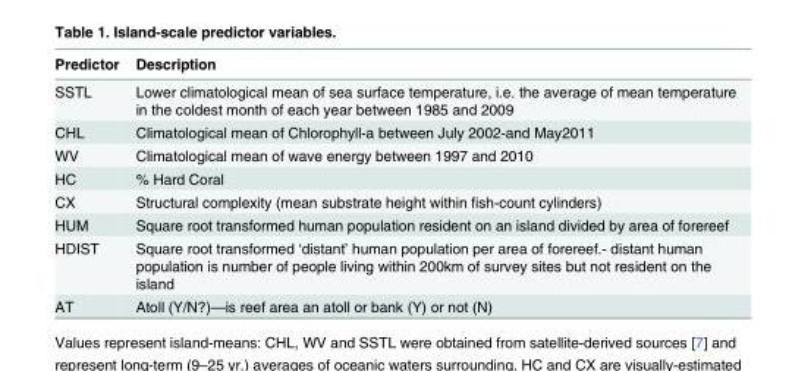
<table><thead><tr><td>Predictor</td><td>Description</td></tr></thead><tbody><tr><td>SSTL</td><td>Lower climatological mean of sea surface temperature, i.e. the average of mean temperature in the coldest month of each year between 1985 and 2009</td></tr><tr><td>CHL</td><td>Climatological mean of Chlorophyll-a between July 2002-and May2011</td></tr><tr><td>WV</td><td>Climatological mean of wave energy between 1997 and 2010</td></tr><tr><td>HC</td><td>% Hard Coral</td></tr><tr><td>CX</td><td>Structural complexity (mean substrate height within fish-count cylinders)</td></tr><tr><td>HUM</td><td>Square root transformed human population resident on an island divided by area of forereef</td></tr><tr><td>HDIST</td><td>Square root transformed ‘distant’ human population per area of forereef.- distant human population is number of people living within 200km of survey sites but not resident on the island</td></tr><tr><td>AT</td><td>Atoll (Y/N?)—is reef area an atoll or bank (Y) or not (N)</td></tr></tbody></table>